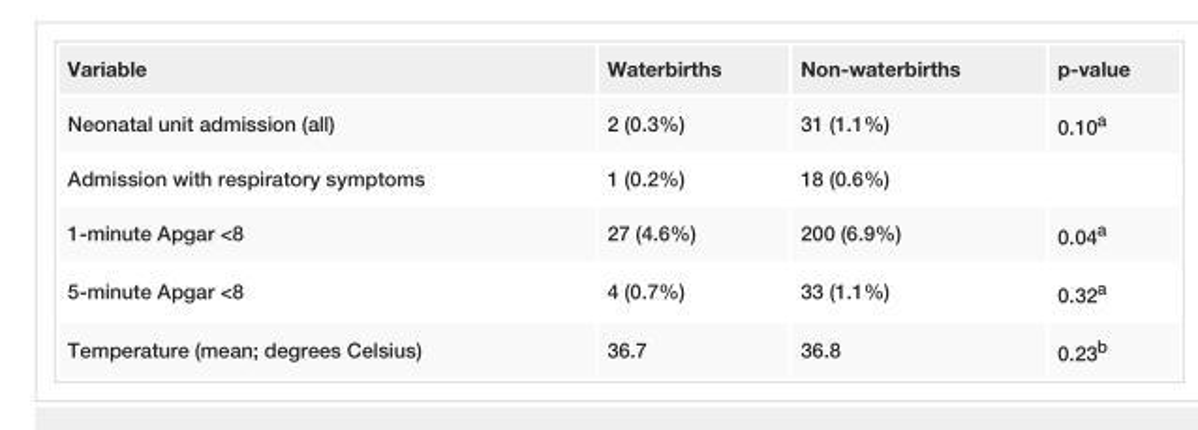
<table><tbody><tr><td>Variable</td><td>Waterbirths</td><td>Non-waterbirths</td><td>p-value</td></tr><tr><td>Neonatal unit admission (all)</td><td>2 (0.3%)</td><td>31 (1.1%)</td><td>0.10<sup>a</sup></td></tr><tr><td>Admission with respiratory symptoms</td><td>1 (0.2%)</td><td>18 (0.6%)</td><td></td></tr><tr><td>1-minute Apgar &lt;8</td><td>27 (4.6%)</td><td>200 (6.9%)</td><td>0.04<sup>a</sup></td></tr><tr><td>5-minute Apgar &lt;8</td><td>4 (0.7%)</td><td>33 (1.1%)</td><td>0.32<sup>a</sup></td></tr><tr><td>Temperature (mean; degrees Celsius)</td><td>36.7</td><td>36.8</td><td>0.23<sup>b</sup></td></tr></tbody></table>